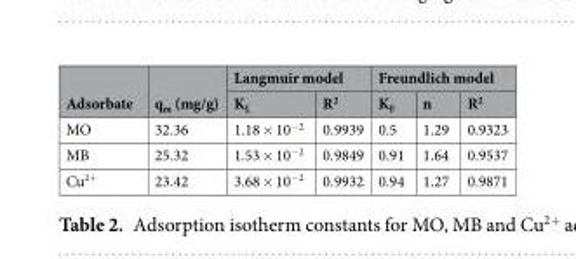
<table><thead><tr><td rowspan="2">Adsorbate</td><td rowspan="2">q<sub>m</sub> (mg/g)</td><td colspan="2">Langmuir model</td><td colspan="3">Freundlich model</td></tr><tr><td>K<sub>L</sub></td><td>R<sup>2</sup></td><td>K<sub>F</sub></td><td>n</td><td>R<sup>2</sup></td></tr></thead><tbody><tr><td>MO</td><td>32.36</td><td>1.18 × 10<sup>−2</sup></td><td>0.9939</td><td>0.5</td><td>1.29</td><td>0.9323</td></tr><tr><td>MB</td><td>25.32</td><td>1.53 × 10<sup>−2</sup></td><td>0.9849</td><td>0.91</td><td>1.64</td><td>0.9537</td></tr><tr><td>Cu<sup>2+</sup></td><td>23.42</td><td>3.68 × 10<sup>−2</sup></td><td>0.9932</td><td>0.94</td><td>1.27</td><td>0.9871</td></tr></tbody></table>